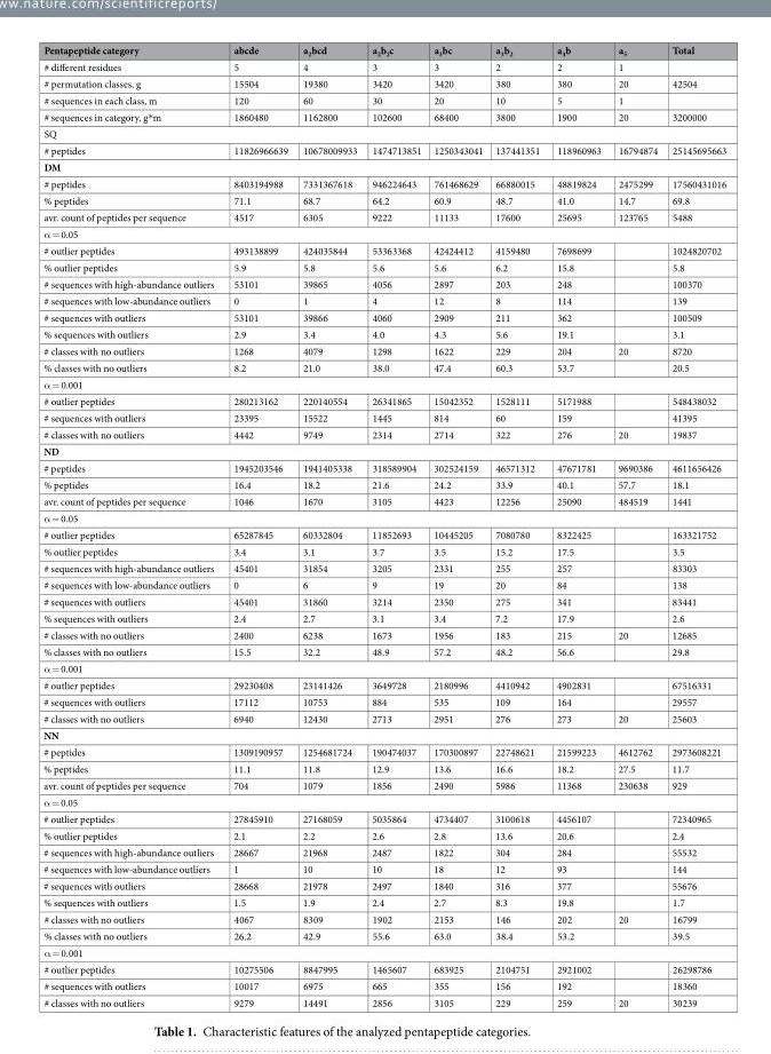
<table><thead><tr><td>Pentapeptide category</td><td>abcde</td><td>a<sub>2</sub>bcd</td><td>a<sub>2</sub>b<sub>2</sub>c</td><td>a<sub>3</sub>bc</td><td>a<sub>3</sub>b<sub>2</sub></td><td>a<sub>4</sub>b</td><td>a<sub>5</sub></td><td>Total</td></tr></thead><tbody><tr><td># different residues</td><td>5</td><td>4</td><td>3</td><td>3</td><td>2</td><td>2</td><td>1</td><td></td></tr><tr><td># permutation classes, g</td><td>15504</td><td>19380</td><td>3420</td><td>3420</td><td>380</td><td>380</td><td>20</td><td>42504</td></tr><tr><td># sequences in each class, m</td><td>120</td><td>60</td><td>30</td><td>20</td><td>10</td><td>5</td><td>1</td><td></td></tr><tr><td># sequences in category, g*m</td><td>1860480</td><td>1162800</td><td>102600</td><td>68400</td><td>3800</td><td>1900</td><td>20</td><td>3200000</td></tr><tr><td colspan="9">SQ</td></tr><tr><td># peptides</td><td>11826966639</td><td>10678009933</td><td>1474713851</td><td>1250343041</td><td>137441351</td><td>118960963</td><td>16794874</td><td>25145695663</td></tr><tr><td colspan="9">DM</td></tr><tr><td># peptides</td><td>8403194988</td><td>7331367618</td><td>946224643</td><td>761468629</td><td>66880015</td><td>48819824</td><td>2475299</td><td>17560431016</td></tr><tr><td>% peptides</td><td>71.1</td><td>68.7</td><td>64.2</td><td>60.9</td><td>48.7</td><td>41.0</td><td>14.7</td><td>69.8</td></tr><tr><td>avr. count of peptides per sequence</td><td>4517</td><td>6305</td><td>9222</td><td>11133</td><td>17600</td><td>25695</td><td>123765</td><td>5488</td></tr><tr><td colspan="9">α = 0.05</td></tr><tr><td># outlier peptides</td><td>493138899</td><td>424035844</td><td>53363368</td><td>42424412</td><td>4159480</td><td>7698699</td><td></td><td>1024820702</td></tr><tr><td>% outlier peptides</td><td>5.9</td><td>5.8</td><td>5.6</td><td>5.6</td><td>6.2</td><td>15.8</td><td></td><td>5.8</td></tr><tr><td># sequences with high-abundance outliers</td><td>53101</td><td>39865</td><td>4056</td><td>2897</td><td>203</td><td>248</td><td></td><td>100370</td></tr><tr><td># sequences with low-abundance outliers</td><td>0</td><td>1</td><td>4</td><td>12</td><td>8</td><td>114</td><td></td><td>139</td></tr><tr><td># sequences with outliers</td><td>53101</td><td>39866</td><td>4060</td><td>2909</td><td>211</td><td>362</td><td></td><td>100509</td></tr><tr><td>% sequences with outliers</td><td>2.9</td><td>3.4</td><td>4.0</td><td>4.3</td><td>5.6</td><td>19.1</td><td></td><td>3.1</td></tr><tr><td># classes with no outliers</td><td>1268</td><td>4079</td><td>1298</td><td>1622</td><td>229</td><td>204</td><td>20</td><td>8720</td></tr><tr><td>% classes with no outliers</td><td>8.2</td><td>21.0</td><td>38.0</td><td>47.4</td><td>60.3</td><td>53.7</td><td></td><td>20.5</td></tr><tr><td colspan="9">α = 0.001</td></tr><tr><td># outlier peptides</td><td>280213162</td><td>220140554</td><td>26341865</td><td>15042352</td><td>1528111</td><td>5171988</td><td></td><td>548438032</td></tr><tr><td># sequences with outliers</td><td>23395</td><td>15522</td><td>1445</td><td>814</td><td>60</td><td>159</td><td></td><td>41395</td></tr><tr><td># classes with no outliers</td><td>4442</td><td>9749</td><td>2314</td><td>2714</td><td>322</td><td>276</td><td>20</td><td>19837</td></tr><tr><td colspan="9">ND</td></tr><tr><td># peptides</td><td>1945203546</td><td>1941405338</td><td>318589904</td><td>302524159</td><td>46571312</td><td>47671781</td><td>9690386</td><td>4611656426</td></tr><tr><td>% peptides</td><td>16.4</td><td>18.2</td><td>21.6</td><td>24.2</td><td>33.9</td><td>40.1</td><td>57.7</td><td>18.1</td></tr><tr><td>avr. count of peptides per sequence</td><td>1046</td><td>1670</td><td>3105</td><td>4423</td><td>12256</td><td>25090</td><td>484519</td><td>1441</td></tr><tr><td colspan="9">α = 0.05</td></tr><tr><td># outlier peptides</td><td>65287845</td><td>60332804</td><td>11852693</td><td>10445205</td><td>7080780</td><td>8322425</td><td></td><td>163321752</td></tr><tr><td>% outlier peptides</td><td>3.4</td><td>3.1</td><td>3.7</td><td>3.5</td><td>15.2</td><td>17.5</td><td></td><td>3.5</td></tr><tr><td># sequences with high-abundance outliers</td><td>45401</td><td>31854</td><td>3205</td><td>2331</td><td>255</td><td>257</td><td></td><td>83303</td></tr><tr><td># sequences with low-abundance outliers</td><td>0</td><td>6</td><td>9</td><td>19</td><td>20</td><td>84</td><td></td><td>138</td></tr><tr><td># sequences with outliers</td><td>45401</td><td>31860</td><td>3214</td><td>2350</td><td>275</td><td>341</td><td></td><td>83441</td></tr><tr><td>% sequences with outliers</td><td>2.4</td><td>2.7</td><td>3.1</td><td>3.4</td><td>7.2</td><td>17.9</td><td></td><td>2.6</td></tr><tr><td># classes with no outliers</td><td>2400</td><td>6238</td><td>1673</td><td>1956</td><td>183</td><td>215</td><td>20</td><td>12685</td></tr><tr><td>% classes with no outliers</td><td>15.5</td><td>32.2</td><td>48.9</td><td>57.2</td><td>48.2</td><td>56.6</td><td></td><td>29.8</td></tr><tr><td colspan="9">α = 0.001</td></tr><tr><td># outlier peptides</td><td>29230408</td><td>23141426</td><td>3649728</td><td>2180996</td><td>4410942</td><td>4902831</td><td></td><td>67516331</td></tr><tr><td># sequences with outliers</td><td>17112</td><td>10753</td><td>884</td><td>535</td><td>109</td><td>164</td><td></td><td>29557</td></tr><tr><td># classes with no outliers</td><td>6940</td><td>12430</td><td>2713</td><td>2951</td><td>276</td><td>273</td><td>20</td><td>25603</td></tr><tr><td colspan="9">NN</td></tr><tr><td># peptides</td><td>1309190957</td><td>1254681724</td><td>190474037</td><td>170300897</td><td>22748621</td><td>21599223</td><td>4612762</td><td>2973608221</td></tr><tr><td>% peptides</td><td>11.1</td><td>11.8</td><td>12.9</td><td>13.6</td><td>16.6</td><td>18.2</td><td>27.5</td><td>11.7</td></tr><tr><td>avr. count of peptides per sequence</td><td>704</td><td>1079</td><td>1856</td><td>2490</td><td>5986</td><td>11368</td><td>230638</td><td>929</td></tr><tr><td colspan="9">α = 0.05</td></tr><tr><td># outlier peptides</td><td>27845910</td><td>27168059</td><td>5035864</td><td>4734407</td><td>3100618</td><td>4456107</td><td></td><td>72340965</td></tr><tr><td>% outlier peptides</td><td>2.1</td><td>2.2</td><td>2.6</td><td>2.8</td><td>13.6</td><td>20.6</td><td></td><td>2.4</td></tr><tr><td># sequences with high-abundance outliers</td><td>28667</td><td>21968</td><td>2487</td><td>1822</td><td>304</td><td>284</td><td></td><td>55532</td></tr><tr><td># sequences with low-abundance outliers</td><td>1</td><td>10</td><td>10</td><td>18</td><td>12</td><td>93</td><td></td><td>144</td></tr><tr><td># sequences with outliers</td><td>28668</td><td>21978</td><td>2497</td><td>1840</td><td>316</td><td>377</td><td></td><td>55676</td></tr><tr><td>% sequences with outliers</td><td>1.5</td><td>1.9</td><td>2.4</td><td>2.7</td><td>8.3</td><td>19.8</td><td></td><td>1.7</td></tr><tr><td># classes with no outliers</td><td>4067</td><td>8309</td><td>1902</td><td>2153</td><td>146</td><td>202</td><td>20</td><td>16799</td></tr><tr><td>% classes with no outliers</td><td>26.2</td><td>42.9</td><td>55.6</td><td>63.0</td><td>38.4</td><td>53.2</td><td></td><td>39.5</td></tr><tr><td colspan="9">α = 0.001</td></tr><tr><td># outlier peptides</td><td>10275506</td><td>8847995</td><td>1465607</td><td>683925</td><td>2104751</td><td>2921002</td><td></td><td>26298786</td></tr><tr><td># sequences with outliers</td><td>10017</td><td>6975</td><td>665</td><td>355</td><td>156</td><td>192</td><td></td><td>18360</td></tr><tr><td># classes with no outliers</td><td>9279</td><td>14491</td><td>2856</td><td>3105</td><td>229</td><td>259</td><td>20</td><td>30239</td></tr></tbody></table>